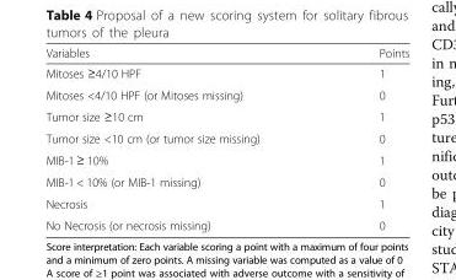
<table><thead><tr><td>Variables</td><td>Points</td></tr></thead><tbody><tr><td>Mitoses ≥4/10 HPF</td><td>1</td></tr><tr><td>Mitoses &lt;4/10 HPF (or Mitoses missing)</td><td>0</td></tr><tr><td>Tumor size ≥10 cm</td><td>1</td></tr><tr><td>Tumor size &lt;10 cm (or tumor size missing)</td><td>0</td></tr><tr><td>MIB-1 ≥ 10%</td><td>1</td></tr><tr><td>MIB-1 &lt; 10% (or MIB-1 missing)</td><td>0</td></tr><tr><td>Necrosis</td><td>1</td></tr><tr><td>No Necrosis (or necrosis missing)</td><td>0</td></tr></tbody></table>